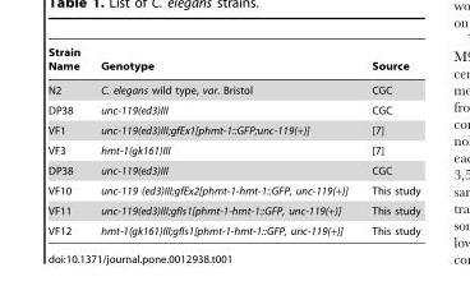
<table><thead><tr><td>Strain Name</td><td>Genotype</td><td>Source</td></tr></thead><tbody><tr><td>N2</td><td>C. elegans wild type, var. Bristol</td><td>CGC</td></tr><tr><td>DP38</td><td>unc-119(ed3)III</td><td>CGC</td></tr><tr><td>VF1</td><td>unc-119(ed3)III;gfEx1[phmt-1::GFP;unc-119(+)]</td><td>[7]</td></tr><tr><td>VF3</td><td>hmt-1(gk161)III</td><td>[7]</td></tr><tr><td>DP38</td><td>unc-119(ed3)III</td><td>CGC</td></tr><tr><td>VF10</td><td>unc-119 (ed3)III;gfEx2[phmt-1-hmt-1::GFP, unc-119(+)]</td><td>This study</td></tr><tr><td>VF11</td><td>unc-119(ed3)III;gfIs1[phmt-1-hmt-1::GFP, unc-119(+)]</td><td>This study</td></tr><tr><td>VF12</td><td>hmt-1(gk161)III;gfIs1[phmt-1-hmt-1::GFP, unc-119(+)]</td><td>This study</td></tr></tbody></table>